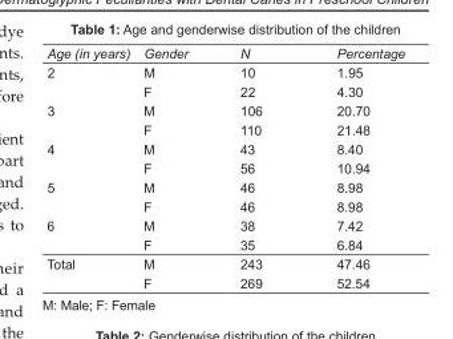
<table><tbody><tr><td>Age (in years)</td><td>Gender</td><td>N</td><td>Percentage</td></tr><tr><td rowspan="2">2</td><td>M</td><td>10</td><td>1.95</td></tr><tr><td>F</td><td>22</td><td>4.30</td></tr><tr><td rowspan="2">3</td><td>M</td><td>106</td><td>20.70</td></tr><tr><td>F</td><td>110</td><td>21.48</td></tr><tr><td rowspan="2">4</td><td>M</td><td>43</td><td>8.40</td></tr><tr><td>F</td><td>56</td><td>10.94</td></tr><tr><td rowspan="2">5</td><td>M</td><td>46</td><td>8.98</td></tr><tr><td>F</td><td>46</td><td>8.98</td></tr><tr><td rowspan="2">6</td><td>M</td><td>38</td><td>7.42</td></tr><tr><td>F</td><td>35</td><td>6.84</td></tr><tr><td rowspan="2">Total</td><td>M</td><td>243</td><td>47.46</td></tr><tr><td>F</td><td>269</td><td>52.54</td></tr></tbody></table>